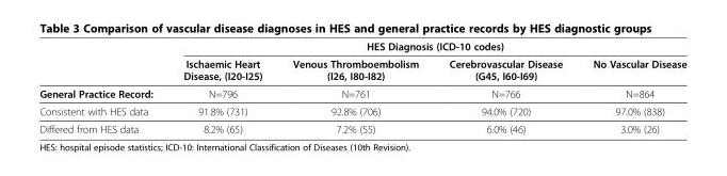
<table><thead><tr><td rowspan="2"></td><td colspan="4">HES Diagnosis (ICD-10 codes)</td></tr><tr><td>Ischaemic Heart Disease, (I20-I25)</td><td>Venous Thromboembolism (I26, I80-I82)</td><td>Cerebrovascular Disease (G45, I60-I69)</td><td>No Vascular Disease</td></tr></thead><tbody><tr><td>General Practice Record:</td><td>N=796</td><td>N=761</td><td>N=766</td><td>N=864</td></tr><tr><td>Consistent with HES data</td><td>91.8% (731)</td><td>92.8% (706)</td><td>94.0% (720)</td><td>97.0% (838)</td></tr><tr><td>Differed from HES data</td><td>8.2% (65)</td><td>7.2% (55)</td><td>6.0% (46)</td><td>3.0% (26)</td></tr></tbody></table>